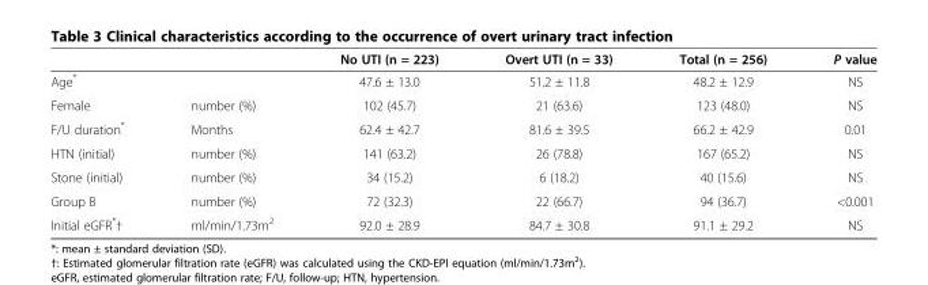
<table><thead><tr><td></td><td></td><td>No UTI (n = 223)</td><td>Overt UTI (n = 33)</td><td>Total (n = 256)</td><td>P value</td></tr></thead><tbody><tr><td>Age*</td><td></td><td>47.6 ± 13.0</td><td>51.2 ± 11.8</td><td>48.2 ± 12.9</td><td>NS</td></tr><tr><td>Female</td><td>number (%)</td><td>102 (45.7)</td><td>21 (63.6)</td><td>123 (48.0)</td><td>NS</td></tr><tr><td>F/U duration*</td><td>Months</td><td>62.4 ± 42.7</td><td>81.6 ± 39.5</td><td>66.2 ± 42.9</td><td>0.01</td></tr><tr><td>HTN (initial)</td><td>number (%)</td><td>141 (63.2)</td><td>26 (78.8)</td><td>167 (65.2)</td><td>NS</td></tr><tr><td>Stone (initial)</td><td>number (%)</td><td>34 (15.2)</td><td>6 (18.2)</td><td>40 (15.6)</td><td>NS</td></tr><tr><td>Group B</td><td>number (%)</td><td>72 (32.3)</td><td>22 (66.7)</td><td>94 (36.7)</td><td>&lt;0.001</td></tr><tr><td>Initial eGFR*†</td><td>ml/min/1.73m<sup>2</sup></td><td>92.0 ± 28.9</td><td>84.7 ± 30.8</td><td>91.1 ± 29.2</td><td>NS</td></tr></tbody></table>